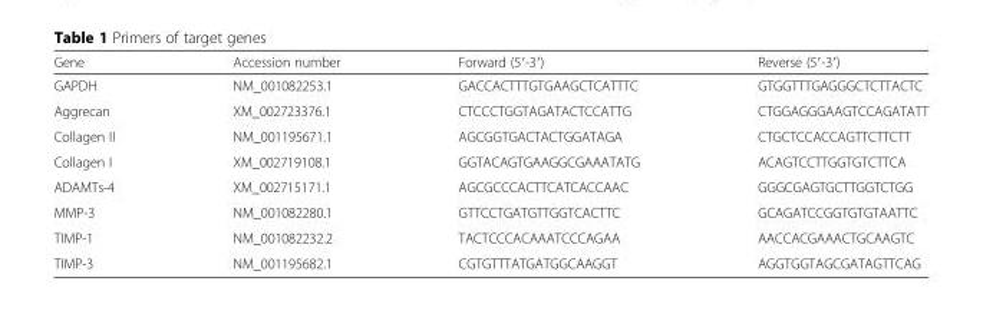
<table><thead><tr><td>Gene</td><td>Accession number</td><td>Forward (5′-3′)</td><td>Reverse (5′-3′)</td></tr></thead><tbody><tr><td>GAPDH</td><td>NM_001082253.1</td><td>GACCACTTTGTGAAGCTCATTTC</td><td>GTGGTTTGAGGGCTCTTACTC</td></tr><tr><td>Aggrecan</td><td>XM_002723376.1</td><td>CTCCCTGGTAGATACTCCATTG</td><td>CTGGAGGGAAGTCCAGATATT</td></tr><tr><td>Collagen II</td><td>NM_001195671.1</td><td>AGCGGTGACTACTGGATAGA</td><td>CTGCTCCACCAGTTCTTCTT</td></tr><tr><td>Collagen I</td><td>XM_002719108.1</td><td>GGTACAGTGAAGGCGAAATATG</td><td>ACAGTCCTTGGTGTCTTCA</td></tr><tr><td>ADAMTs-4</td><td>XM_002715171.1</td><td>AGCGCCCACTTCATCACCAAC</td><td>GGGCGAGTGCTTGGTCTGG</td></tr><tr><td>MMP-3</td><td>NM_001082280.1</td><td>GTTCCTGATGTTGGTCACTTC</td><td>GCAGATCCGGTGTGTAATTC</td></tr><tr><td>TIMP-1</td><td>NM_001082232.2</td><td>TACTCCCACAAATCCCAGAA</td><td>AACCACGAAACTGCAAGTC</td></tr><tr><td>TIMP-3</td><td>NM_001195682.1</td><td>CGTGTTTATGATGGCAAGGT</td><td>AGGTGGTAGCGATAGTTCAG</td></tr></tbody></table>